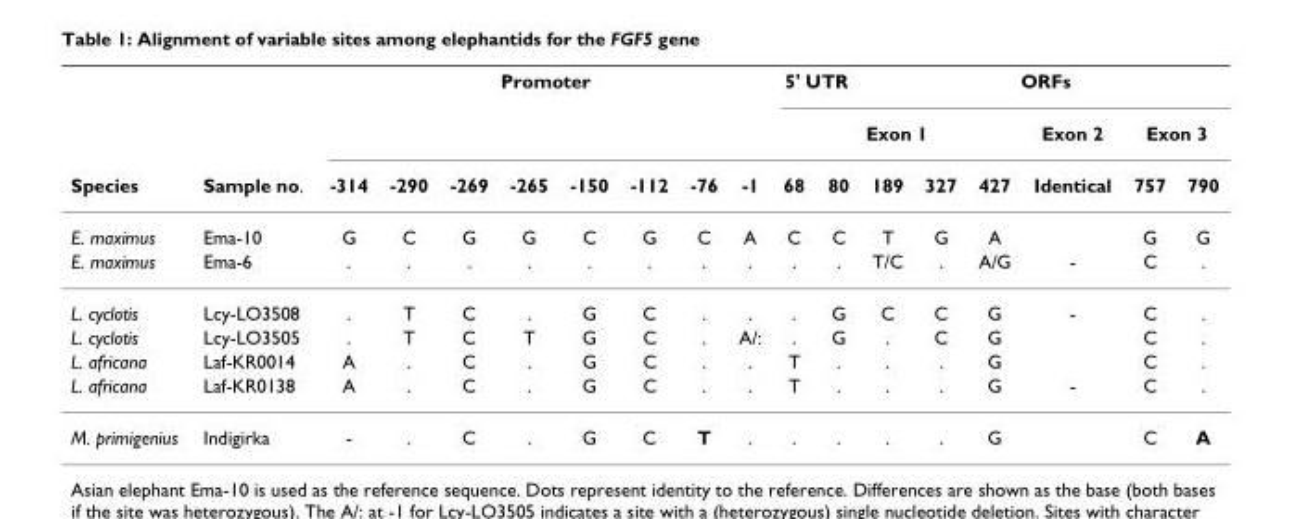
<table><thead><tr><td rowspan="3">Species</td><td rowspan="3">Sample no.</td><td colspan="8">Promoter</td><td colspan="2">5&#x27; UTR</td><td colspan="6">ORFs</td></tr><tr><td rowspan="2">-314</td><td rowspan="2">-290</td><td rowspan="2">-269</td><td rowspan="2">-265</td><td rowspan="2">-150</td><td rowspan="2">-112</td><td rowspan="2">-76</td><td rowspan="2">-1</td><td colspan="5">Exon 1</td><td rowspan="2">Exon 2 Identical</td><td colspan="2">Exon 3</td></tr><tr><td>68</td><td>80</td><td>189</td><td>327</td><td>427</td><td>757</td><td>790</td></tr></thead><tbody><tr><td>E. maximus</td><td>Ema-10</td><td>G</td><td>C</td><td>G</td><td>G</td><td>C</td><td>G</td><td>C</td><td>A</td><td>C</td><td>C</td><td>T</td><td>G</td><td>A</td><td></td><td>G</td><td>G</td></tr><tr><td>E. maximus</td><td>Ema-6</td><td>.</td><td>.</td><td>.</td><td>.</td><td>.</td><td>.</td><td>.</td><td>.</td><td>.</td><td>.</td><td>T/C</td><td>.</td><td>A/G</td><td>-</td><td>C</td><td>.</td></tr><tr><td>L. cyclotis</td><td>Lcy-LO3508</td><td>.</td><td>T</td><td>C</td><td>.</td><td>G</td><td>C</td><td>.</td><td>.</td><td>.</td><td>G</td><td>C</td><td>C</td><td>G</td><td>-</td><td>C</td><td>.</td></tr><tr><td>L. cyclotis</td><td>Lcy-LO3505</td><td>.</td><td>T</td><td>C</td><td>T</td><td>G</td><td>C</td><td>.</td><td>A/:</td><td>.</td><td>G</td><td>.</td><td>C</td><td>G</td><td></td><td>C</td><td>.</td></tr><tr><td>L. africana</td><td>Laf-KR0014</td><td>A</td><td>.</td><td>C</td><td>.</td><td>G</td><td>C</td><td>.</td><td>.</td><td>T</td><td>.</td><td>.</td><td>.</td><td>G</td><td></td><td>C</td><td>.</td></tr><tr><td>L. africana</td><td>Laf-KR0138</td><td>A</td><td>.</td><td>C</td><td>.</td><td>G</td><td>C</td><td>.</td><td>.</td><td>T</td><td>.</td><td>.</td><td>.</td><td>G</td><td>-</td><td>C</td><td>.</td></tr><tr><td>M. primigenius</td><td>Indigirka</td><td>-</td><td>.</td><td>C</td><td>.</td><td>G</td><td>C</td><td>T</td><td>.</td><td>.</td><td>.</td><td>.</td><td>.</td><td>G</td><td></td><td>C</td><td>A</td></tr></tbody></table>